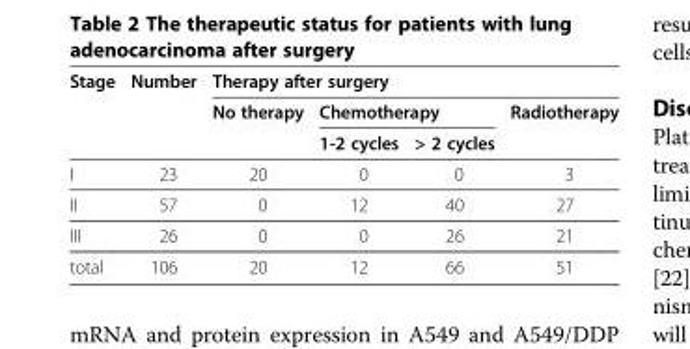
<table><thead><tr><td rowspan="3">Stage</td><td rowspan="3">Number</td><td colspan="4">Therapy after surgery</td></tr><tr><td rowspan="2">No therapy</td><td colspan="2">Chemotherapy</td><td rowspan="2">Radiotherapy</td></tr><tr><td>1-2 cycles</td><td>&gt; 2 cycles</td></tr></thead><tbody><tr><td>I</td><td>23</td><td>20</td><td>0</td><td>0</td><td>3</td></tr><tr><td>II</td><td>57</td><td>0</td><td>12</td><td>40</td><td>27</td></tr><tr><td>III</td><td>26</td><td>0</td><td>0</td><td>26</td><td>21</td></tr><tr><td>total</td><td>106</td><td>20</td><td>12</td><td>66</td><td>51</td></tr></tbody></table>